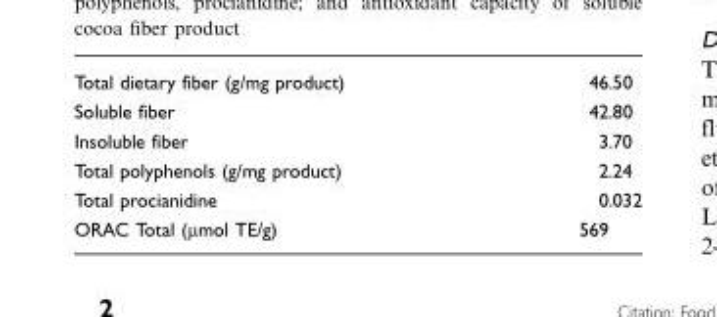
<table><tbody><tr><td>Total dietary fiber (g/mg product)</td><td>46.50</td></tr><tr><td>Soluble fiber</td><td>42.80</td></tr><tr><td>Insoluble fiber</td><td>3.70</td></tr><tr><td>Total polyphenols (g/mg product)</td><td>2.24</td></tr><tr><td>Total procianidine</td><td>0.032</td></tr><tr><td>ORAC Total (µmol TE/g)</td><td>569</td></tr></tbody></table>